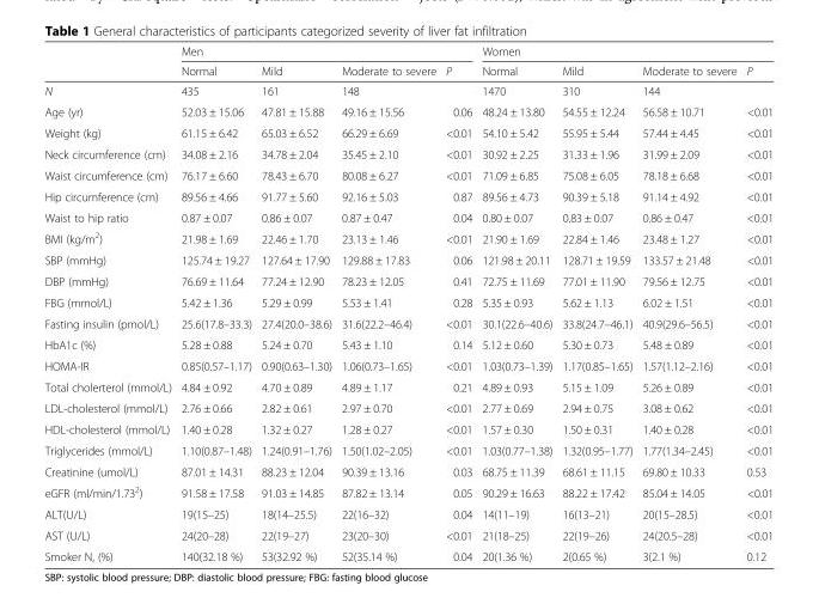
<table><thead><tr><td rowspan="2"></td><td colspan="4">Men</td><td colspan="4">Women</td></tr><tr><td>Normal</td><td>Mild</td><td>Moderate to severe</td><td>P</td><td>Normal</td><td>Mild</td><td>Moderate to severe</td><td>P</td></tr></thead><tbody><tr><td>N</td><td>435</td><td>161</td><td>148</td><td></td><td>1470</td><td>310</td><td>144</td><td></td></tr><tr><td>Age (yr)</td><td>52.03 ± 15.06</td><td>47.81 ± 15.88</td><td>49.16 ± 15.56</td><td>0.06</td><td>48.24 ± 13.80</td><td>54.55 ± 12.24</td><td>56.58 ± 10.71</td><td>&lt;0.01</td></tr><tr><td>Weight (kg)</td><td>61.15 ± 6.42</td><td>65.03 ± 6.52</td><td>66.29 ± 6.69</td><td>&lt;0.01</td><td>54.10 ± 5.42</td><td>55.95 ± 5.44</td><td>57.44 ± 4.45</td><td>&lt;0.01</td></tr><tr><td>Neck circumference (cm)</td><td>34.08 ± 2.16</td><td>34.78 ± 2.04</td><td>35.45 ± 2.10</td><td>&lt;0.01</td><td>30.92 ± 2.25</td><td>31.33 ± 1.96</td><td>31.99 ± 2.09</td><td>&lt;0.01</td></tr><tr><td>Waist circumference (cm)</td><td>76.17 ± 6.60</td><td>78.43 ± 6.70</td><td>80.08 ± 6.27</td><td>&lt;0.01</td><td>71.09 ± 6.85</td><td>75.08 ± 6.05</td><td>78.18 ± 6.68</td><td>&lt;0.01</td></tr><tr><td>Hip circumference (cm)</td><td>89.56 ± 4.66</td><td>91.77 ± 5.60</td><td>92.16 ± 5.03</td><td>0.87</td><td>89.56 ± 4.73</td><td>90.39 ± 5.18</td><td>91.14 ± 4.92</td><td>&lt;0.01</td></tr><tr><td>Waist to hip ratio</td><td>0.87 ± 0.07</td><td>0.86 ± 0.07</td><td>0.87 ± 0.47</td><td>0.04</td><td>0.80 ± 0.07</td><td>0.83 ± 0.07</td><td>0.86 ± 0.47</td><td>&lt;0.01</td></tr><tr><td>BMI (kg/m<sup>2</sup>)</td><td>21.98 ± 1.69</td><td>22.46 ± 1.70</td><td>23.13 ± 1.46</td><td>&lt;0.01</td><td>21.90 ± 1.69</td><td>22.84 ± 1.46</td><td>23.48 ± 1.27</td><td>&lt;0.01</td></tr><tr><td>SBP (mmHg)</td><td>125.74 ± 19.27</td><td>127.64 ± 17.90</td><td>129.88 ± 17.83</td><td>0.06</td><td>121.98 ± 20.11</td><td>128.71 ± 19.59</td><td>133.57 ± 21.48</td><td>&lt;0.01</td></tr><tr><td>DBP (mmHg)</td><td>76.69 ± 11.64</td><td>77.24 ± 12.90</td><td>78.23 ± 12.05</td><td>0.41</td><td>72.75 ± 11.69</td><td>77.01 ± 11.90</td><td>79.56 ± 12.75</td><td>&lt;0.01</td></tr><tr><td>FBG (mmol/L)</td><td>5.42 ± 1.36</td><td>5.29 ± 0.99</td><td>5.53 ± 1.41</td><td>0.28</td><td>5.35 ± 0.93</td><td>5.62 ± 1.13</td><td>6.02 ± 1.51</td><td>&lt;0.01</td></tr><tr><td>Fasting insulin (pmol/L)</td><td>25.6(17.8–33.3)</td><td>27.4(20.0–38.6)</td><td>31.6(22.2–46.4)</td><td>&lt;0.01</td><td>30.1(22.6–40.6)</td><td>33.8(24.7–46.1)</td><td>40.9(29.6–56.5)</td><td>&lt;0.01</td></tr><tr><td>HbA1c (%)</td><td>5.28 ± 0.88</td><td>5.24 ± 0.70</td><td>5.43 ± 1.10</td><td>0.14</td><td>5.12 ± 0.60</td><td>5.30 ± 0.73</td><td>5.48 ± 0.89</td><td>&lt;0.01</td></tr><tr><td>HOMA-IR</td><td>0.85(0.57–1.17)</td><td>0.90(0.63–1.30)</td><td>1.06(0.73–1.65)</td><td>&lt;0.01</td><td>1.03(0.73–1.39)</td><td>1.17(0.85–1.65)</td><td>1.57(1.12–2.16)</td><td>&lt;0.01</td></tr><tr><td>Total cholerterol (mmol/L)</td><td>4.84 ± 0.92</td><td>4.70 ± 0.89</td><td>4.89 ± 1.17</td><td>0.21</td><td>4.89 ± 0.93</td><td>5.15 ± 1.09</td><td>5.26 ± 0.89</td><td>&lt;0.01</td></tr><tr><td>LDL-cholesterol (mmol/L)</td><td>2.76 ± 0.66</td><td>2.82 ± 0.61</td><td>2.97 ± 0.70</td><td>&lt;0.01</td><td>2.77 ± 0.69</td><td>2.94 ± 0.75</td><td>3.08 ± 0.62</td><td>&lt;0.01</td></tr><tr><td>HDL-cholesterol (mmol/L)</td><td>1.40 ± 0.28</td><td>1.32 ± 0.27</td><td>1.28 ± 0.27</td><td>&lt;0.01</td><td>1.57 ± 0.30</td><td>1.50 ± 0.31</td><td>1.40 ± 0.28</td><td>&lt;0.01</td></tr><tr><td>Triglycerides (mmol/L)</td><td>1.10(0.87–1.48)</td><td>1.24(0.91–1.76)</td><td>1.50(1.02–2.05)</td><td>&lt;0.01</td><td>1.03(0.77–1.38)</td><td>1.32(0.95–1.77)</td><td>1.77(1.34–2.45)</td><td>&lt;0.01</td></tr><tr><td>Creatinine (umol/L)</td><td>87.01 ± 14.31</td><td>88.23 ± 12.04</td><td>90.39 ± 13.16</td><td>0.03</td><td>68.75 ± 11.39</td><td>68.61 ± 11.15</td><td>69.80 ± 10.33</td><td>0.53</td></tr><tr><td>eGFR (ml/min/1.73<sup>2</sup>)</td><td>91.58 ± 17.58</td><td>91.03 ± 14.85</td><td>87.82 ± 13.14</td><td>0.05</td><td>90.29 ± 16.63</td><td>88.22 ± 17.42</td><td>85.04 ± 14.05</td><td>&lt;0.01</td></tr><tr><td>ALT(U/L)</td><td>19(15–25)</td><td>18(14–25.5)</td><td>22(16–32)</td><td>0.04</td><td>14(11–19)</td><td>16(13–21)</td><td>20(15–28.5)</td><td>&lt;0.01</td></tr><tr><td>AST (U/L)</td><td>24(20–28)</td><td>22(19–27)</td><td>23(20–30)</td><td>&lt;0.01</td><td>21(18–25)</td><td>22(19–26)</td><td>24(20.5–28)</td><td>&lt;0.01</td></tr><tr><td>Smoker N, (%)</td><td>140(32.18 %)</td><td>53(32.92 %)</td><td>52(35.14 %)</td><td>0.04</td><td>20(1.36 %)</td><td>2(0.65 %)</td><td>3(2.1 %)</td><td>0.12</td></tr></tbody></table>